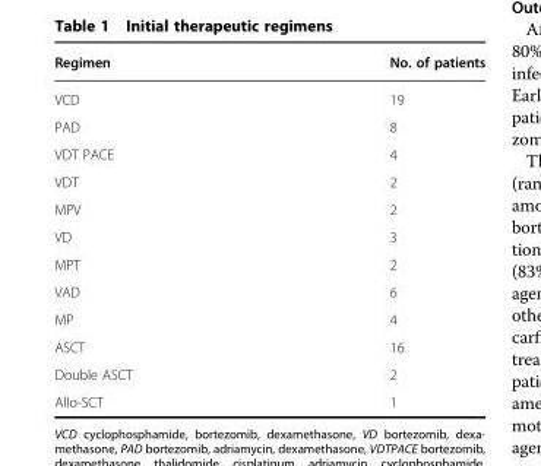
<table><thead><tr><td>Regimen</td><td>No. of patients</td></tr></thead><tbody><tr><td>VCD</td><td>19</td></tr><tr><td>PAD</td><td>8</td></tr><tr><td>VDT PACE</td><td>4</td></tr><tr><td>VDT</td><td>2</td></tr><tr><td>MPV</td><td>2</td></tr><tr><td>VD</td><td>3</td></tr><tr><td>MPT</td><td>2</td></tr><tr><td>VAD</td><td>6</td></tr><tr><td>MP</td><td>4</td></tr><tr><td>ASCT</td><td>16</td></tr><tr><td>Double ASCT</td><td>2</td></tr><tr><td>Allo-SCT</td><td>1</td></tr></tbody></table>